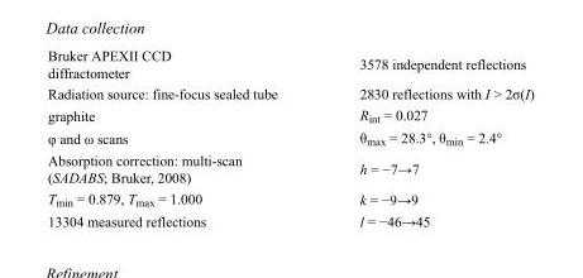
<table><tbody><tr><td>Bruker APEXII CCD diffractometer</td><td>3578 independent reflections</td></tr><tr><td>Radiation source: fine-focus sealed tube</td><td>2830 reflections with I &gt; 2σ(I)</td></tr><tr><td>graphite</td><td>R<sub>int</sub> = 0.027</td></tr><tr><td>φ and ω scans</td><td>θ<sub>max</sub> = 28.3°, θ<sub>min</sub> = 2.4°</td></tr><tr><td>Absorption correction: multi-scan (SADABS; Bruker, 2008)</td><td>h = −7→7</td></tr><tr><td>T<sub>min</sub> = 0.879, T<sub>max</sub> = 1.000</td><td>k = −9→9</td></tr><tr><td>13304 measured reflections</td><td>l = −46→45</td></tr></tbody></table>